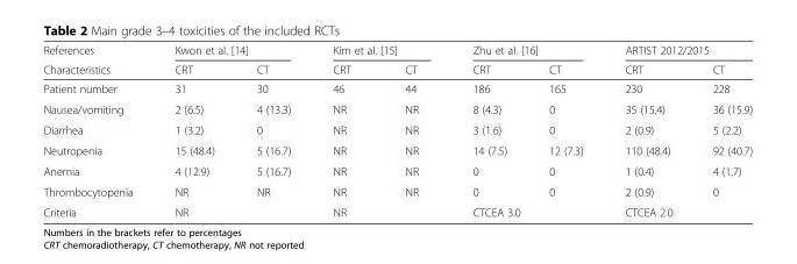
<table><thead><tr><td rowspan="2">References Characteristics</td><td colspan="2">Kwon et al. [14]</td><td colspan="2">Kim et al. [15]</td><td colspan="2">Zhu et al. [16]</td><td colspan="2">ARTIST 2012/2015</td></tr><tr><td>CRT</td><td>CT</td><td>CRT</td><td>CT</td><td>CRT</td><td>CT</td><td>CRT</td><td>CT</td></tr></thead><tbody><tr><td>Patient number</td><td>31</td><td>30</td><td>46</td><td>44</td><td>186</td><td>165</td><td>230</td><td>228</td></tr><tr><td>Nausea/vomiting</td><td>2 (6.5)</td><td>4 (13.3)</td><td>NR</td><td>NR</td><td>8 (4.3)</td><td>0</td><td>35 (15.4)</td><td>36 (15.9)</td></tr><tr><td>Diarrhea</td><td>1 (3.2)</td><td>0</td><td>NR</td><td>NR</td><td>3 (1.6)</td><td>0</td><td>2 (0.9)</td><td>5 (2.2)</td></tr><tr><td>Neutropenia</td><td>15 (48.4)</td><td>5 (16.7)</td><td>NR</td><td>NR</td><td>14 (7.5)</td><td>12 (7.3)</td><td>110 (48.4)</td><td>92 (40.7)</td></tr><tr><td>Anemia</td><td>4 (12.9)</td><td>5 (16.7)</td><td>NR</td><td>NR</td><td>0</td><td>0</td><td>1 (0.4)</td><td>4 (1.7)</td></tr><tr><td>Thrombocytopenia</td><td>NR</td><td>NR</td><td>NR</td><td>NR</td><td>0</td><td>0</td><td>2 (0.9)</td><td>0</td></tr><tr><td>Criteria</td><td colspan="2">NR</td><td colspan="2">NR</td><td colspan="2">CTCEA 3.0</td><td colspan="2">CTCEA 2.0</td></tr></tbody></table>